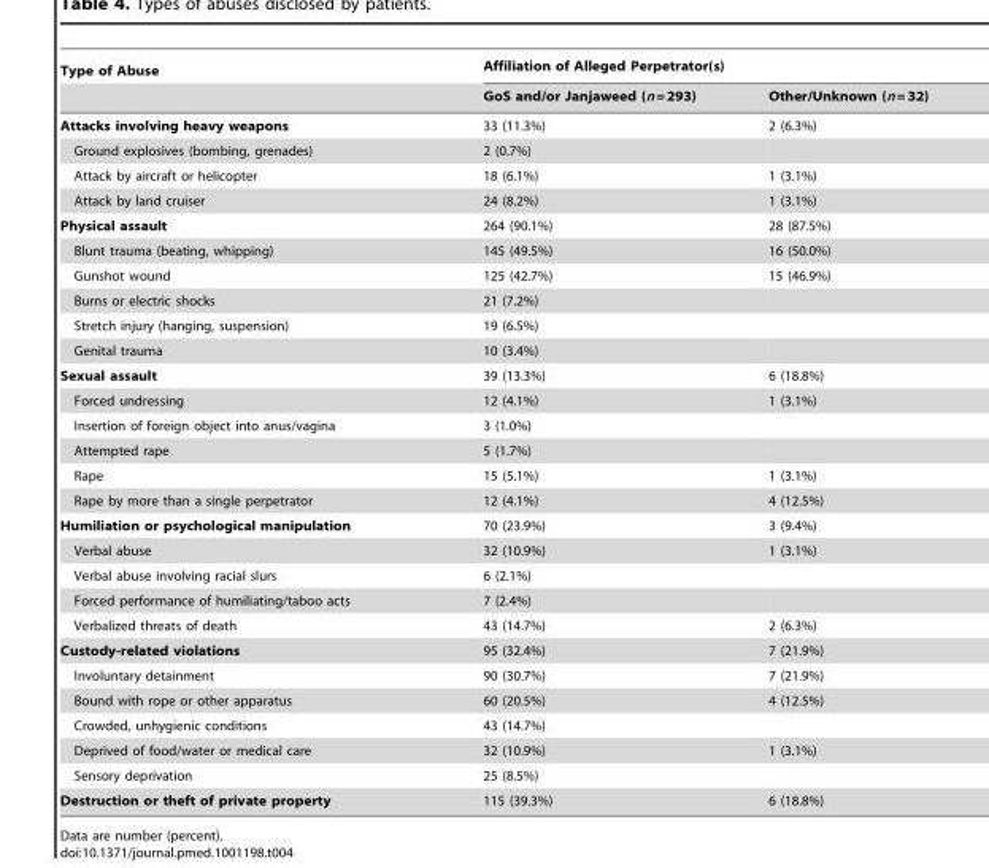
<table><thead><tr><td rowspan="2">Type of Abuse</td><td colspan="2">Affiliation of Alleged Perpetrator(s)</td></tr><tr><td>GoS and/or Janjaweed (n = 293)</td><td>Other/Unknown (n = 32)</td></tr></thead><tbody><tr><td>Attacks involving heavy weapons</td><td>33 (11.3%)</td><td>2 (6.3%)</td></tr><tr><td>Ground explosives (bombing, grenades)</td><td>2 (0.7%)</td><td></td></tr><tr><td>Attack by aircraft or helicopter</td><td>18 (6.1%)</td><td>1 (3.1%)</td></tr><tr><td>Attack by land cruiser</td><td>24 (8.2%)</td><td>1 (3.1%)</td></tr><tr><td>Physical assault</td><td>264 (90.1%)</td><td>28 (87.5%)</td></tr><tr><td>Blunt trauma (beating, whipping)</td><td>145 (49.5%)</td><td>16 (50.0%)</td></tr><tr><td>Gunshot wound</td><td>125 (42.7%)</td><td>15 (46.9%)</td></tr><tr><td>Burns or electric shocks</td><td>21 (7.2%)</td><td></td></tr><tr><td>Stretch injury (hanging, suspension)</td><td>19 (6.5%)</td><td></td></tr><tr><td>Genital trauma</td><td>10 (3.4%)</td><td></td></tr><tr><td>Sexual assault</td><td>39 (13.3%)</td><td>6 (18.8%)</td></tr><tr><td>Forced undressing</td><td>12 (4.1%)</td><td>1 (3.1%)</td></tr><tr><td>Insertion of foreign object into anus/vagina</td><td>3 (1.0%)</td><td></td></tr><tr><td>Attempted rape</td><td>5 (1.7%)</td><td></td></tr><tr><td>Rape</td><td>15 (5.1%)</td><td>1 (3.1%)</td></tr><tr><td>Rape by more than a single perpetrator</td><td>12 (4.1%)</td><td>4 (12.5%)</td></tr><tr><td>Humiliation or psychological manipulation</td><td>70 (23.9%)</td><td>3 (9.4%)</td></tr><tr><td>Verbal abuse</td><td>32 (10.9%)</td><td>1 (3.1%)</td></tr><tr><td>Verbal abuse involving racial slurs</td><td>6 (2.1%)</td><td></td></tr><tr><td>Forced performance of humiliating/taboo acts</td><td>7 (2.4%)</td><td></td></tr><tr><td>Verbalized threats of death</td><td>43 (14.7%)</td><td>2 (6.3%)</td></tr><tr><td>Custody-related violations</td><td>95 (32.4%)</td><td>7 (21.9%)</td></tr><tr><td>Involuntary detainment</td><td>90 (30.7%)</td><td>7 (21.9%)</td></tr><tr><td>Bound with rope or other apparatus</td><td>60 (20.5%)</td><td>4 (12.5%)</td></tr><tr><td>Crowded, unhygienic conditions</td><td>43 (14.7%)</td><td></td></tr><tr><td>Deprived of food/water or medical care</td><td>32 (10.9%)</td><td>1 (3.1%)</td></tr><tr><td>Sensory deprivation</td><td>25 (8.5%)</td><td></td></tr><tr><td>Destruction or theft of private property</td><td>115 (39.3%)</td><td>6 (18.8%)</td></tr></tbody></table>